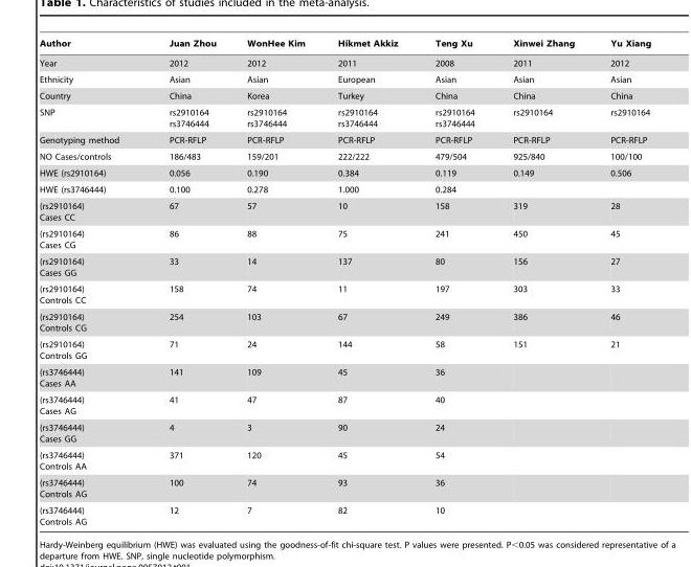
<table><thead><tr><td>Author</td><td>Juan Zhou</td><td>WonHee Kim</td><td>Hikmet Akkiz</td><td>Teng Xu</td><td>Xinwei Zhang</td><td>Yu Xiang</td></tr></thead><tbody><tr><td>Year</td><td>2012</td><td>2012</td><td>2011</td><td>2008</td><td>2011</td><td>2012</td></tr><tr><td>Ethnicity</td><td>Asian</td><td>Asian</td><td>European</td><td>Asian</td><td>Asian</td><td>Asian</td></tr><tr><td>Country</td><td>China</td><td>Korea</td><td>Turkey</td><td>China</td><td>China</td><td>China</td></tr><tr><td>SNP</td><td>rs2910164 rs3746444</td><td>rs2910164 rs3746444</td><td>rs2910164 rs3746444</td><td>rs2910164 rs3746444</td><td>rs2910164</td><td>rs2910164</td></tr><tr><td>Genotyping method</td><td>PCR-RFLP</td><td>PCR-RFLP</td><td>PCR-RFLP</td><td>PCR-RFLP</td><td>PCR-RFLP</td><td>PCR-RFLP</td></tr><tr><td>NO Cases/controls</td><td>186/483</td><td>159/201</td><td>222/222</td><td>479/504</td><td>925/840</td><td>100/100</td></tr><tr><td>HWE (rs2910164)</td><td>0.056</td><td>0.190</td><td>0.384</td><td>0.119</td><td>0.149</td><td>0.506</td></tr><tr><td>HWE (rs3746444)</td><td>0.100</td><td>0.278</td><td>1.000</td><td>0.284</td><td></td><td></td></tr><tr><td>(rs2910164) Cases CC</td><td>67</td><td>57</td><td>10</td><td>158</td><td>319</td><td>28</td></tr><tr><td>(rs2910164) Cases CG</td><td>86</td><td>88</td><td>75</td><td>241</td><td>450</td><td>45</td></tr><tr><td>(rs2910164) Cases GG</td><td>33</td><td>14</td><td>137</td><td>80</td><td>156</td><td>27</td></tr><tr><td>(rs2910164) Controls CC</td><td>158</td><td>74</td><td>11</td><td>197</td><td>303</td><td>33</td></tr><tr><td>(rs2910164) Controls CG</td><td>254</td><td>103</td><td>67</td><td>249</td><td>386</td><td>46</td></tr><tr><td>(rs2910164) Controls GG</td><td>71</td><td>24</td><td>144</td><td>58</td><td>151</td><td>21</td></tr><tr><td>(rs3746444) Cases AA</td><td>141</td><td>109</td><td>45</td><td>36</td><td></td><td></td></tr><tr><td>(rs3746444) Cases AG</td><td>41</td><td>47</td><td>87</td><td>40</td><td></td><td></td></tr><tr><td>(rs3746444) Cases GG</td><td>4</td><td>3</td><td>90</td><td>24</td><td></td><td></td></tr><tr><td>(rs3746444) Controls AA</td><td>371</td><td>120</td><td>45</td><td>54</td><td></td><td></td></tr><tr><td>(rs3746444) Controls AG</td><td>100</td><td>74</td><td>93</td><td>36</td><td></td><td></td></tr><tr><td>(rs3746444) Controls AG</td><td>12</td><td>7</td><td>82</td><td>10</td><td></td><td></td></tr></tbody></table>